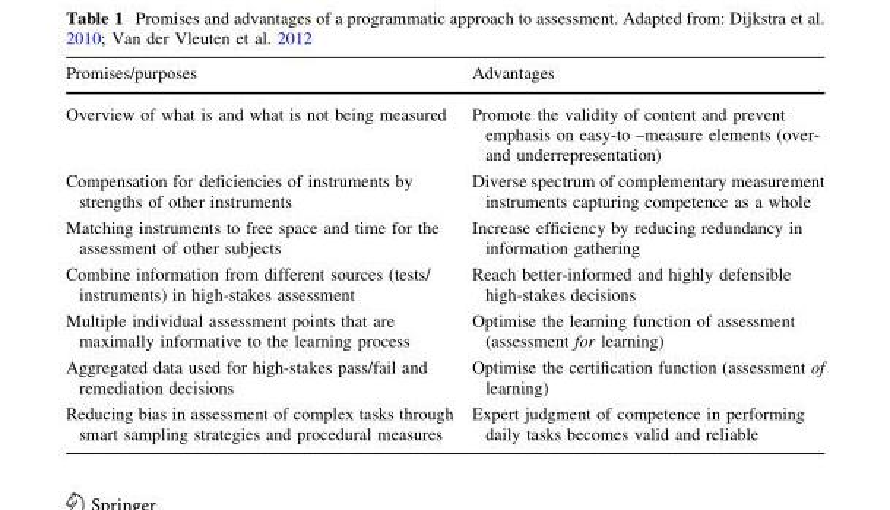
<table><thead><tr><td>Promises/purposes</td><td>Advantages</td></tr></thead><tbody><tr><td>Overview of what is and what is not being measured</td><td>Promote the validity of content and prevent emphasis on easy-to –measure elements (over- and underrepresentation)</td></tr><tr><td>Compensation for deficiencies of instruments by strengths of other instruments</td><td>Diverse spectrum of complementary measurement instruments capturing competence as a whole</td></tr><tr><td>Matching instruments to free space and time for the assessment of other subjects</td><td>Increase efficiency by reducing redundancy in information gathering</td></tr><tr><td>Combine information from different sources (tests/ instruments) in high-stakes assessment</td><td>Reach better-informed and highly defensible high-stakes decisions</td></tr><tr><td>Multiple individual assessment points that are maximally informative to the learning process</td><td>Optimise the learning function of assessment (assessment for learning)</td></tr><tr><td>Aggregated data used for high-stakes pass/fail and remediation decisions</td><td>Optimise the certification function (assessment of learning)</td></tr><tr><td>Reducing bias in assessment of complex tasks through smart sampling strategies and procedural measures</td><td>Expert judgment of competence in performing daily tasks becomes valid and reliable</td></tr></tbody></table>